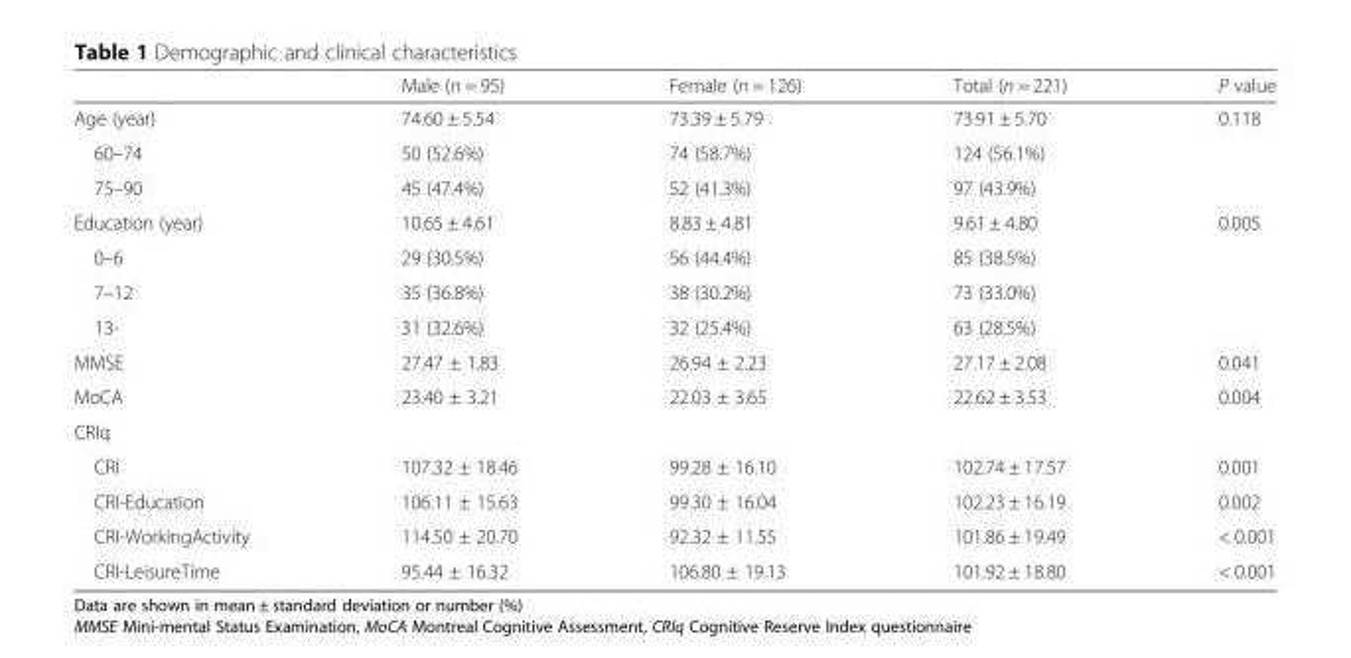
<table><thead><tr><td></td><td>Male (n = 95)</td><td>Female (n = 126)</td><td>Total (n = 221)</td><td>P value</td></tr></thead><tbody><tr><td>Age (year)</td><td>74.60 ± 5.54</td><td>73.39 ± 5.79</td><td>73.91 ± 5.70</td><td>0.118</td></tr><tr><td>60–74</td><td>50 (52.6%)</td><td>74 (58.7%)</td><td>124 (56.1%)</td><td></td></tr><tr><td>75–90</td><td>45 (47.4%)</td><td>52 (41.3%)</td><td>97 (43.9%)</td><td></td></tr><tr><td>Education (year)</td><td>10.65 ± 4.61</td><td>8.83 ± 4.81</td><td>9.61 ± 4.80</td><td>0.005</td></tr><tr><td>0–6</td><td>29 (30.5%)</td><td>56 (44.4%)</td><td>85 (38.5%)</td><td></td></tr><tr><td>7–12</td><td>35 (36.8%)</td><td>38 (30.2%)</td><td>73 (33.0%)</td><td></td></tr><tr><td>13-</td><td>31 (32.6%)</td><td>32 (25.4%)</td><td>63 (28.5%)</td><td></td></tr><tr><td>MMSE</td><td>27.47 ± 1.83</td><td>26.94 ± 2.23</td><td>27.17 ± 2.08</td><td>0.041</td></tr><tr><td>MoCA</td><td>23.40 ± 3.21</td><td>22.03 ± 3.65</td><td>22.62 ± 3.53</td><td>0.004</td></tr><tr><td colspan="5">CRIq</td></tr><tr><td>CRI</td><td>107.32 ± 18.46</td><td>99.28 ± 16.10</td><td>102.74 ± 17.57</td><td>0.001</td></tr><tr><td>CRI-Education</td><td>106.11 ± 15.63</td><td>99.30 ± 16.04</td><td>102.23 ± 16.19</td><td>0.002</td></tr><tr><td>CRI-WorkingActivity</td><td>114.50 ± 20.70</td><td>92.32 ± 11.55</td><td>101.86 ± 19.49</td><td>&lt; 0.001</td></tr><tr><td>CRI-LeisureTime</td><td>95.44 ± 16.32</td><td>106.80 ± 19.13</td><td>101.92 ± 18.80</td><td>&lt; 0.001</td></tr></tbody></table>